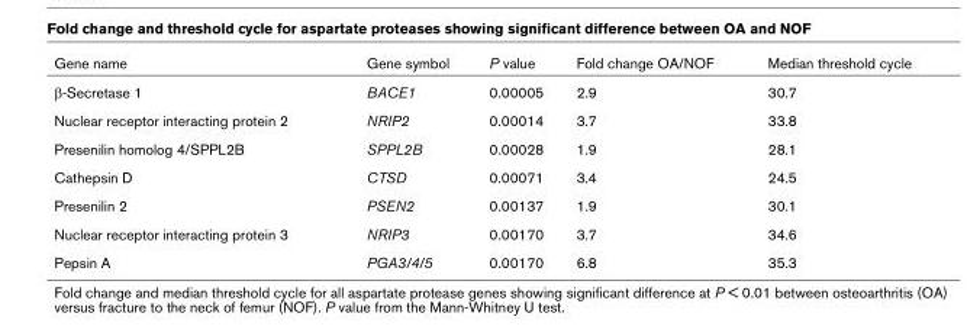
<table><thead><tr><td>Gene name</td><td>Gene symbol</td><td>P value</td><td>Fold change OA/NOF</td><td>Median threshold cycle</td></tr></thead><tbody><tr><td>β-Secretase 1</td><td>BACE1</td><td>0.00005</td><td>2.9</td><td>30.7</td></tr><tr><td>Nuclear receptor interacting protein 2</td><td>NRIP2</td><td>0.00014</td><td>3.7</td><td>33.8</td></tr><tr><td>Presenilin homolog 4/SPPL2B</td><td>SPPL2B</td><td>0.00028</td><td>1.9</td><td>28.1</td></tr><tr><td>Cathepsin D</td><td>CTSD</td><td>0.00071</td><td>3.4</td><td>24.5</td></tr><tr><td>Presenilin 2</td><td>PSEN2</td><td>0.00137</td><td>1.9</td><td>30.1</td></tr><tr><td>Nuclear receptor interacting protein 3</td><td>NRIP3</td><td>0.00170</td><td>3.7</td><td>34.6</td></tr><tr><td>Pepsin A</td><td>PGA3/4/5</td><td>0.00170</td><td>6.8</td><td>35.3</td></tr></tbody></table>